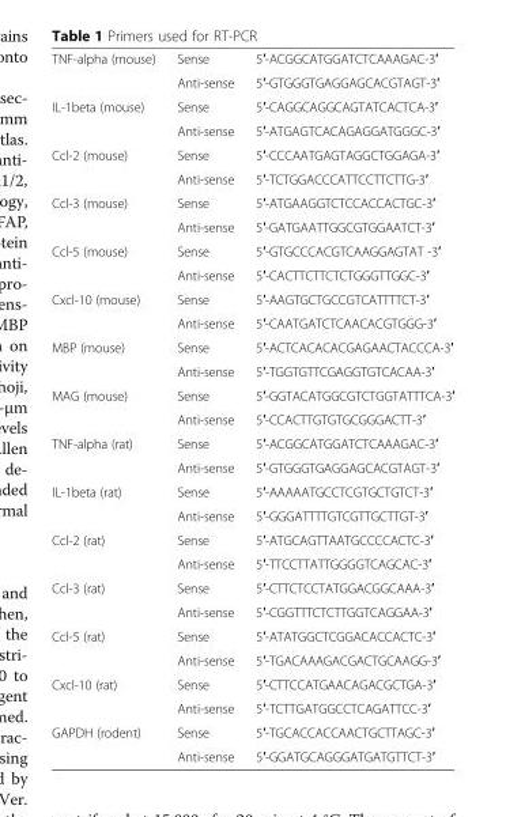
<table><tbody><tr><td rowspan="2">TNF-alpha (mouse)</td><td>Sense</td><td>5′-ACGGCATGGATCTCAAAGAC-3′</td></tr><tr><td>Anti-sense</td><td>5′-GTGGGTGAGGAGCACGTAGT-3′</td></tr><tr><td rowspan="2">IL-1beta (mouse)</td><td>Sense</td><td>5′-CAGGCAGGCAGTATCACTCA-3′</td></tr><tr><td>Anti-sense</td><td>5′-ATGAGTCACAGAGGATGGGC-3′</td></tr><tr><td rowspan="2">Ccl-2 (mouse)</td><td>Sense</td><td>5′-CCCAATGAGTAGGCTGGAGA-3′</td></tr><tr><td>Anti-sense</td><td>5′-TCTGGACCCATTCCTTCTTG-3′</td></tr><tr><td rowspan="2">Ccl-3 (mouse)</td><td>Sense</td><td>5′-ATGAAGGTCTCCACCACTGC-3′</td></tr><tr><td>Anti-sense</td><td>5′-GATGAATTGGCGTGGAATCT-3′</td></tr><tr><td rowspan="2">Ccl-5 (mouse)</td><td>Sense</td><td>5′-GTGCCCACGTCAAGGAGTAT -3′</td></tr><tr><td>Anti-sense</td><td>5′-CACTTCTTCTCTGGGTTGGC-3′</td></tr><tr><td rowspan="2">Cxcl-10 (mouse)</td><td>Sense</td><td>5′-AAGTGCTGCCGTCATTTTCT-3′</td></tr><tr><td>Anti-sense</td><td>5′-CAATGATCTCAACACGTGGG-3′</td></tr><tr><td rowspan="2">MBP (mouse)</td><td>Sense</td><td>5′-ACTCACACACGAGAACTACCCA-3′</td></tr><tr><td>Anti-sense</td><td>5′-TGGTGTTCGAGGTGTCACAA-3′</td></tr><tr><td rowspan="2">MAG (mouse)</td><td>Sense</td><td>5′-GGTACATGGCGTCTGGTATTTCA-3′</td></tr><tr><td>Anti-sense</td><td>5′-CCACTTGTGTGCGGGACTT-3′</td></tr><tr><td rowspan="2">TNF-alpha (rat)</td><td>Sense</td><td>5′-ACGGCATGGATCTCAAAGAC-3′</td></tr><tr><td>Anti-sense</td><td>5′-GTGGGTGAGGAGCACGTAGT-3′</td></tr><tr><td rowspan="2">IL-1beta (rat)</td><td>Sense</td><td>5′-AAAAATGCCTCGTGCTGTCT-3′</td></tr><tr><td>Anti-sense</td><td>5′-GGGATTTTGTCGTTGCTTGT-3′</td></tr><tr><td rowspan="2">Ccl-2 (rat)</td><td>Sense</td><td>5′-ATGCAGTTAATGCCCCACTC-3′</td></tr><tr><td>Anti-sense</td><td>5′-TTCCTTATTGGGGTCAGCAC-3′</td></tr><tr><td rowspan="2">Ccl-3 (rat)</td><td>Sense</td><td>5′-CTTCTCCTATGGACGGCAAA-3′</td></tr><tr><td>Anti-sense</td><td>5′-CGGTTTCTCTTGGTCAGGAA-3′</td></tr><tr><td rowspan="2">Ccl-5 (rat)</td><td>Sense</td><td>5′-ATATGGCTCGGACACCACTC-3′</td></tr><tr><td>Anti-sense</td><td>5′-TGACAAAGACGACTGCAAGG-3′</td></tr><tr><td rowspan="2">Cxcl-10 (rat)</td><td>Sense</td><td>5′-CTTCCATGAACAGACGCTGA-3′</td></tr><tr><td>Anti-sense</td><td>5′-TCTTGATGGCCTCAGATTCC-3′</td></tr><tr><td rowspan="2">GAPDH (rodent)</td><td>Sense</td><td>5′-TGCACCACCAACTGCTTAGC-3′</td></tr><tr><td>Anti-sense</td><td>5′-GGATGCAGGGATGATGTTCT-3′</td></tr></tbody></table>